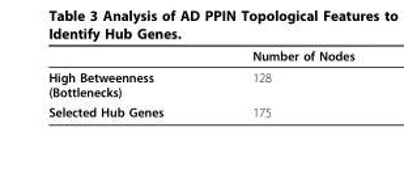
<table><thead><tr><td></td><td>Number of Nodes</td></tr></thead><tbody><tr><td>High Betweenness (Bottlenecks)</td><td>128</td></tr><tr><td>Selected Hub Genes</td><td>175</td></tr></tbody></table>